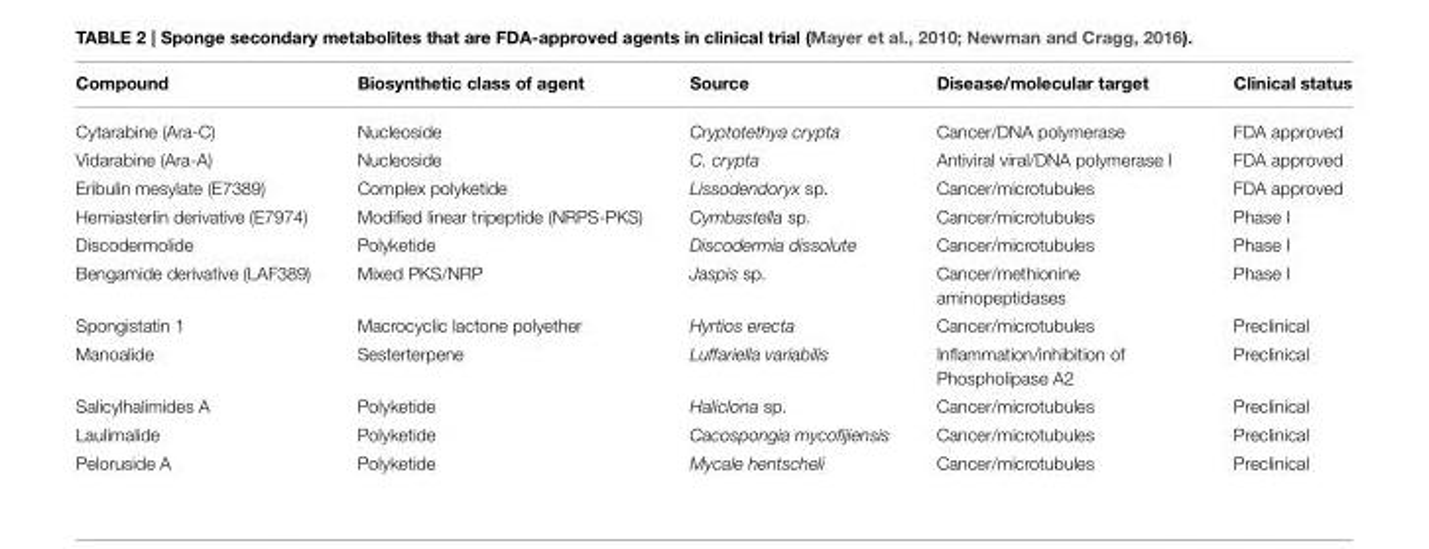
<table><thead><tr><td>Compound</td><td>Biosynthetic class of agent</td><td>Source</td><td>Disease/molecular target</td><td>Clinical status</td></tr></thead><tbody><tr><td>Cytarabine (Ara-C)</td><td>Nucleoside</td><td>Cryptotethya crypta</td><td>Cancer/DNA polymerase</td><td>FDA approved</td></tr><tr><td>Vidarabine (Ara-A)</td><td>Nucleoside</td><td>C. crypta</td><td>Antiviral viral/DNA polymerase I</td><td>FDA approved</td></tr><tr><td>Eribulin mesylate (E7389)</td><td>Complex polyketide</td><td>Lissodendoryx sp.</td><td>Cancer/microtubules</td><td>FDA approved</td></tr><tr><td>Hemiasterlin derivative (E7974)</td><td>Modified linear tripeptide (NRPS-PKS)</td><td>Cymbastella sp.</td><td>Cancer/microtubules</td><td>Phase I</td></tr><tr><td>Discodermolide</td><td>Polyketide</td><td>Discodermia dissolute</td><td>Cancer/microtubules</td><td>Phase I</td></tr><tr><td>Bengamide derivative (LAF389)</td><td>Mixed PKS/NRP</td><td>Jaspis sp.</td><td>Cancer/methionine aminopeptidases</td><td>Phase I</td></tr><tr><td>Spongistatin 1</td><td>Macrocyclic lactone polyether</td><td>Hyrtios erecta</td><td>Cancer/microtubules</td><td>Preclinical</td></tr><tr><td>Manoalide</td><td>Sesterterpene</td><td>Luffariella variabilis</td><td>Inflammation/inhibition of Phospholipase A2</td><td>Preclinical</td></tr><tr><td>Salicylhalimides A</td><td>Polyketide</td><td>Haliclona sp.</td><td>Cancer/microtubules</td><td>Preclinical</td></tr><tr><td>Laulimalide</td><td>Polyketide</td><td>Cacospongia mycofijiensis</td><td>Cancer/microtubules</td><td>Preclinical</td></tr><tr><td>Peloruside A</td><td>Polyketide</td><td>Mycale hentscheli</td><td>Cancer/microtubules</td><td>Preclinical</td></tr></tbody></table>